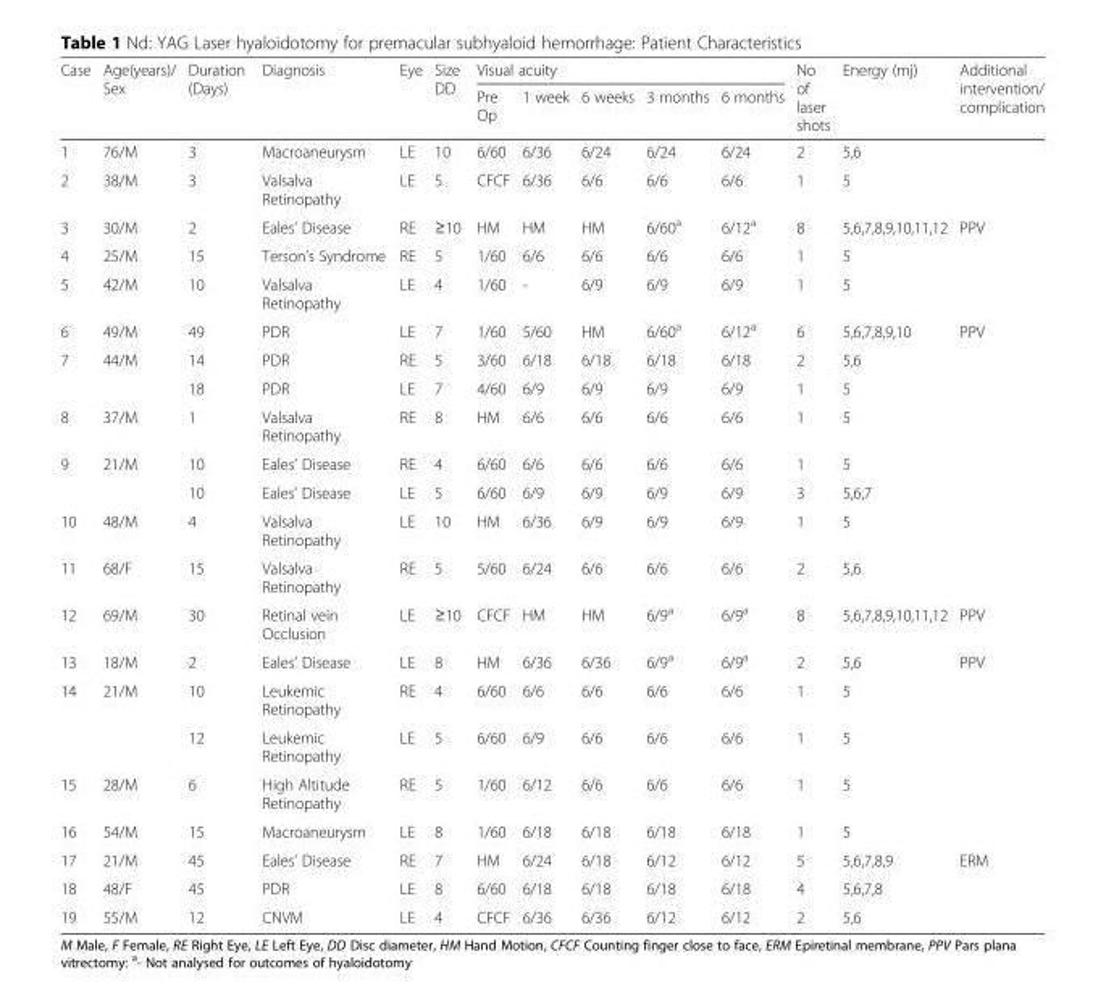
<table><thead><tr><td rowspan="2">Case</td><td rowspan="2">Age(years)/ Sex</td><td rowspan="2">Duration (Days)</td><td rowspan="2">Diagnosis</td><td rowspan="2">Eye</td><td rowspan="2">Size DD</td><td colspan="5">Visual acuity</td><td rowspan="2">No of laser shots</td><td rowspan="2">Energy (mj)</td><td rowspan="2">Additional intervention/ complication</td></tr><tr><td>Pre Op</td><td>1 week</td><td>6 weeks</td><td>3 months</td><td>6 months</td></tr></thead><tbody><tr><td>1</td><td>76/M</td><td>3</td><td>Macroaneurysm</td><td>LE</td><td>10</td><td>6/60</td><td>6/36</td><td>6/24</td><td>6/24</td><td>6/24</td><td>2</td><td>5,6</td><td></td></tr><tr><td>2</td><td>38/M</td><td>3</td><td>Valsalva Retinopathy</td><td>LE</td><td>5</td><td>CFCF</td><td>6/36</td><td>6/6</td><td>6/6</td><td>6/6</td><td>1</td><td>5</td><td></td></tr><tr><td>3</td><td>30/M</td><td>2</td><td>Eales’ Disease</td><td>RE</td><td>≥10</td><td>HM</td><td>HM</td><td>HM</td><td>6/60<sup>a</sup></td><td>6/12<sup>a</sup></td><td>8</td><td>5,6,7,8,9,10,11,12</td><td>PPV</td></tr><tr><td>4</td><td>25/M</td><td>15</td><td>Terson’s Syndrome</td><td>RE</td><td>5</td><td>1/60</td><td>6/6</td><td>6/6</td><td>6/6</td><td>6/6</td><td>1</td><td>5</td><td></td></tr><tr><td>5</td><td>42/M</td><td>10</td><td>Valsalva Retinopathy</td><td>LE</td><td>4</td><td>1/60</td><td>-</td><td>6/9</td><td>6/9</td><td>6/9</td><td>1</td><td>5</td><td></td></tr><tr><td>6</td><td>49/M</td><td>49</td><td>PDR</td><td>LE</td><td>7</td><td>1/60</td><td>5/60</td><td>HM</td><td>6/60<sup>a</sup></td><td>6/12<sup>a</sup></td><td>6</td><td>5,6,7,8,9,10</td><td>PPV</td></tr><tr><td rowspan="2">7</td><td>44/M</td><td>14</td><td>PDR</td><td>RE</td><td>5</td><td>3/60</td><td>6/18</td><td>6/18</td><td>6/18</td><td>6/18</td><td>2</td><td>5,6</td><td></td></tr><tr><td></td><td>18</td><td>PDR</td><td>LE</td><td>7</td><td>4/60</td><td>6/9</td><td>6/9</td><td>6/9</td><td>6/9</td><td>1</td><td>5</td><td></td></tr><tr><td>8</td><td>37/M</td><td>1</td><td>Valsalva Retinopathy</td><td>RE</td><td>8</td><td>HM</td><td>6/6</td><td>6/6</td><td>6/6</td><td>6/6</td><td>1</td><td>5</td><td></td></tr><tr><td rowspan="2">9</td><td>21/M</td><td>10</td><td>Eales’ Disease</td><td>RE</td><td>4</td><td>6/60</td><td>6/6</td><td>6/6</td><td>6/6</td><td>6/6</td><td>1</td><td>5</td><td></td></tr><tr><td></td><td>10</td><td>Eales’ Disease</td><td>LE</td><td>5</td><td>6/60</td><td>6/9</td><td>6/9</td><td>6/9</td><td>6/9</td><td>3</td><td>5,6,7</td><td></td></tr><tr><td>10</td><td>48/M</td><td>4</td><td>Valsalva Retinopathy</td><td>LE</td><td>10</td><td>HM</td><td>6/36</td><td>6/9</td><td>6/9</td><td>6/9</td><td>1</td><td>5</td><td></td></tr><tr><td>11</td><td>68/F</td><td>15</td><td>Valsalva Retinopathy</td><td>RE</td><td>5</td><td>5/60</td><td>6/24</td><td>6/6</td><td>6/6</td><td>6/6</td><td>2</td><td>5,6</td><td></td></tr><tr><td>12</td><td>69/M</td><td>30</td><td>Retinal vein Occlusion</td><td>LE</td><td>≥10</td><td>CFCF</td><td>HM</td><td>HM</td><td>6/9<sup>a</sup></td><td>6/9<sup>a</sup></td><td>8</td><td>5,6,7,8,9,10,11,12</td><td>PPV</td></tr><tr><td>13</td><td>18/M</td><td>2</td><td>Eales’ Disease</td><td>LE</td><td>8</td><td>HM</td><td>6/36</td><td>6/36</td><td>6/9<sup>a</sup></td><td>6/9<sup>a</sup></td><td>2</td><td>5,6</td><td>PPV</td></tr><tr><td rowspan="2">14</td><td>21/M</td><td>10</td><td>Leukemic Retinopathy</td><td>RE</td><td>4</td><td>6/60</td><td>6/6</td><td>6/6</td><td>6/6</td><td>6/6</td><td>1</td><td>5</td><td></td></tr><tr><td></td><td>12</td><td>Leukemic Retinopathy</td><td>LE</td><td>5</td><td>6/60</td><td>6/9</td><td>6/6</td><td>6/6</td><td>6/6</td><td>1</td><td>5</td><td></td></tr><tr><td>15</td><td>28/M</td><td>6</td><td>High Altitude Retinopathy</td><td>RE</td><td>5</td><td>1/60</td><td>6/12</td><td>6/6</td><td>6/6</td><td>6/6</td><td>1</td><td>5</td><td></td></tr><tr><td>16</td><td>54/M</td><td>15</td><td>Macroaneurysm</td><td>LE</td><td>8</td><td>1/60</td><td>6/18</td><td>6/18</td><td>6/18</td><td>6/18</td><td>1</td><td>5</td><td></td></tr><tr><td>17</td><td>21/M</td><td>45</td><td>Eales’ Disease</td><td>RE</td><td>7</td><td>HM</td><td>6/24</td><td>6/18</td><td>6/12</td><td>6/12</td><td>5</td><td>5,6,7,8,9</td><td>ERM</td></tr><tr><td>18</td><td>48/F</td><td>45</td><td>PDR</td><td>LE</td><td>8</td><td>6/60</td><td>6/18</td><td>6/18</td><td>6/18</td><td>6/18</td><td>4</td><td>5,6,7,8</td><td></td></tr><tr><td>19</td><td>55/M</td><td>12</td><td>CNVM</td><td>LE</td><td>4</td><td>CFCF</td><td>6/36</td><td>6/36</td><td>6/12</td><td>6/12</td><td>2</td><td>5,6</td><td></td></tr></tbody></table>